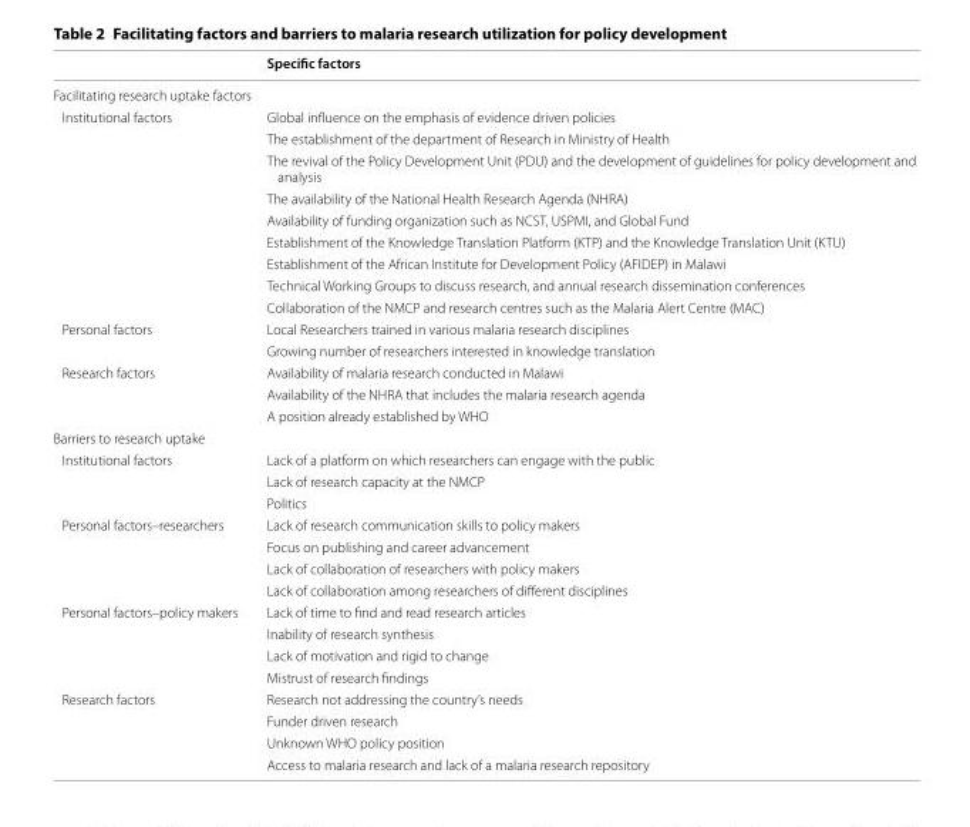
<table><thead><tr><td></td><td>Specific factors</td></tr></thead><tbody><tr><td colspan="2">Facilitating research uptake factors</td></tr><tr><td rowspan="9">Institutional factors</td><td>Global influence on the emphasis of evidence driven policies</td></tr><tr><td>The establishment of the department of Research in Ministry of Health</td></tr><tr><td>The revival of the Policy Development Unit (PDU) and the development of guidelines for policy development and analysis</td></tr><tr><td>The availability of the National Health Research Agenda (NHRA)</td></tr><tr><td>Availability of funding organization such as NCST, USPMI, and Global Fund</td></tr><tr><td>Establishment of the Knowledge Translation Platform (KTP) and the Knowledge Translation Unit (KTU)</td></tr><tr><td>Establishment of the African Institute for Development Policy (AFIDEP) in Malawi</td></tr><tr><td>Technical Working Groups to discuss research, and annual research dissemination conferences</td></tr><tr><td>Collaboration of the NMCP and research centres such as the Malaria Alert Centre (MAC)</td></tr><tr><td rowspan="2">Personal factors</td><td>Local Researchers trained in various malaria research disciplines</td></tr><tr><td>Growing number of researchers interested in knowledge translation</td></tr><tr><td rowspan="3">Research factors</td><td>Availability of malaria research conducted in Malawi</td></tr><tr><td>Availability of the NHRA that includes the malaria research agenda</td></tr><tr><td>A position already established by WHO</td></tr><tr><td colspan="2">Barriers to research uptake</td></tr><tr><td rowspan="3">Institutional factors</td><td>Lack of a platform on which researchers can engage with the public</td></tr><tr><td>Lack of research capacity at the NMCP</td></tr><tr><td>Politics</td></tr><tr><td rowspan="4">Personal factors–researchers</td><td>Lack of research communication skills to policy makers</td></tr><tr><td>Focus on publishing and career advancement</td></tr><tr><td>Lack of collaboration of researchers with policy makers</td></tr><tr><td>Lack of collaboration among researchers of different disciplines</td></tr><tr><td rowspan="4">Personal factors–policy makers</td><td>Lack of time to find and read research articles</td></tr><tr><td>Inability of research synthesis</td></tr><tr><td>Lack of motivation and rigid to change</td></tr><tr><td>Mistrust of research findings</td></tr><tr><td rowspan="4">Research factors</td><td>Research not addressing the country’s needs</td></tr><tr><td>Funder driven research</td></tr><tr><td>Unknown WHO policy position</td></tr><tr><td>Access to malaria research and lack of a malaria research repository</td></tr></tbody></table>